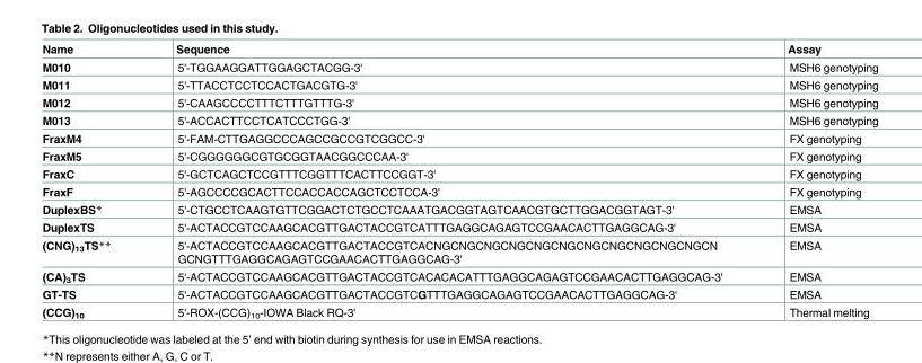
<table><thead><tr><td>Name</td><td>Sequence</td><td>Assay</td></tr></thead><tbody><tr><td>M010</td><td>5&#x27;-TGGAAGGATTGGAGCTACGG-3&#x27;</td><td>MSH6 genotyping</td></tr><tr><td>M011</td><td>5&#x27;-TTACCTCCTCCACTGACGTG-3&#x27;</td><td>MSH6 genotyping</td></tr><tr><td>M012</td><td>5&#x27;-CAAGCCCCTTTCTTTGTTTG-3&#x27;</td><td>MSH6 genotyping</td></tr><tr><td>M013</td><td>5&#x27;-ACCACTTCCTCATCCCTGG-3&#x27;</td><td>MSH6 genotyping</td></tr><tr><td>FraxM4</td><td>5&#x27;-FAM-CTTGAGGCCCAGCCGCCGTCGGCC-3&#x27;</td><td>FX genotyping</td></tr><tr><td>FraxM5</td><td>5&#x27;-CGGGGGGCGTGCGGTAACGGCCCAA-3&#x27;</td><td>FX genotyping</td></tr><tr><td>FraxC</td><td>5&#x27;-GCTCAGCTCCGTTTCGGTTTCACTTCCGGT-3&#x27;</td><td>FX genotyping</td></tr><tr><td>FraxF</td><td>5&#x27;-AGCCCCGCACTTCCACCACCAGCTCCTCCA-3&#x27;</td><td>FX genotyping</td></tr><tr><td>DuplexBS*</td><td>5&#x27;-CTGCCTCAAGTGTTCGGACTCTGCCTCAAATGACGGTAGTCAACGTGCTTGGACGGTAGT-3&#x27;</td><td>EMSA</td></tr><tr><td>DuplexTS</td><td>5&#x27;-ACTACCGTCCAAGCACGTTGACTACCGTCATTTGAGGCAGAGTCCGAACACTTGAGGCAG-3&#x27;</td><td>EMSA</td></tr><tr><td>(CNG)<sub>13</sub>TS**</td><td>5&#x27;-ACTACCGTCCAAGCACGTTGACTACCGTCACNGCNGCNGCNGCNGCNGCNGCNGCNGCNGCNGCN GCNGTTTGAGGCAGAGTCCGAACACTTGAGGCAG-3&#x27;</td><td>EMSA</td></tr><tr><td>(CA)<sub>3</sub>TS</td><td>5&#x27;-ACTACCGTCCAAGCACGTTGACTACCGTCACACACATTTGAGGCAGAGTCCGAACACTTGAGGCAG-3&#x27;</td><td>EMSA</td></tr><tr><td>GT-TS</td><td>5&#x27;-ACTACCGTCCAAGCACGTTGACTACCGTCGTTTGAGGCAGAGTCCGAACACTTGAGGCAG-3&#x27;</td><td>EMSA</td></tr><tr><td>(CCG)<sub>10</sub></td><td>5&#x27;-ROX-(CCG)<sub>10</sub>-IOWA Black RQ-3&#x27;</td><td>Thermal melting</td></tr></tbody></table>